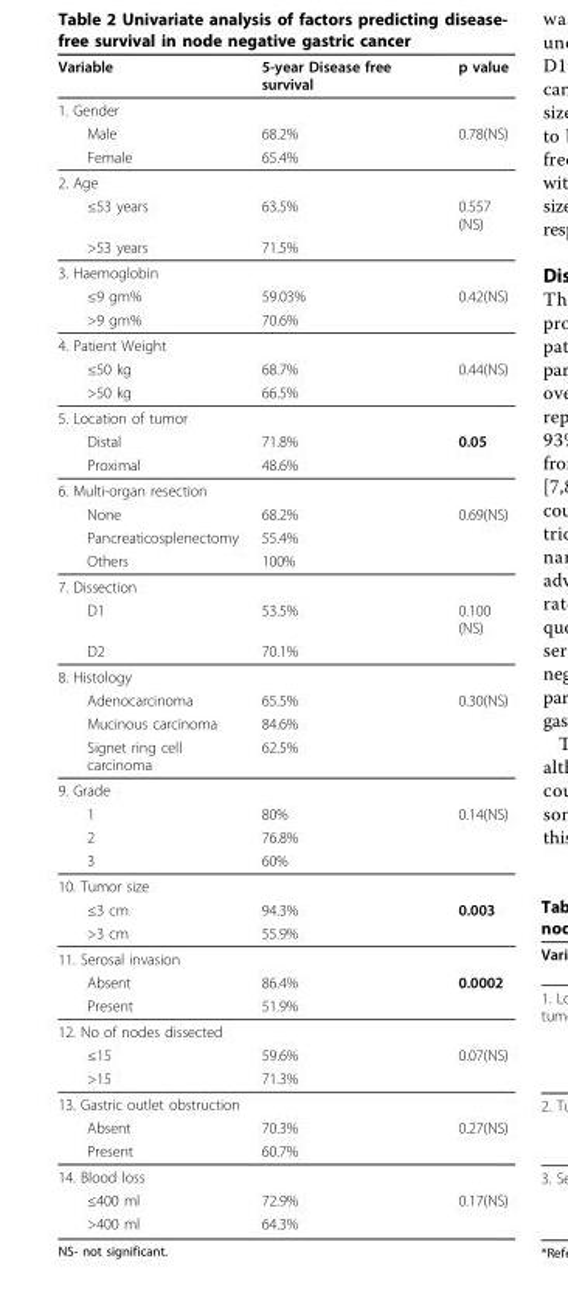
<table><thead><tr><td>Variable</td><td>5-year Disease free survival</td><td>p value</td></tr></thead><tbody><tr><td colspan="3">1. Gender</td></tr><tr><td>Male</td><td>68.2%</td><td>0.78(NS)</td></tr><tr><td>Female</td><td>65.4%</td><td></td></tr><tr><td colspan="3">2. Age</td></tr><tr><td>≤53 years</td><td>63.5%</td><td>0.557 (NS)</td></tr><tr><td>&gt;53 years</td><td>71.5%</td><td></td></tr><tr><td colspan="3">3. Haemoglobin</td></tr><tr><td>≤9 gm%</td><td>59.03%</td><td>0.42(NS)</td></tr><tr><td>&gt;9 gm%</td><td>70.6%</td><td></td></tr><tr><td colspan="3">4. Patient Weight</td></tr><tr><td>≤50 kg</td><td>68.7%</td><td>0.44(NS)</td></tr><tr><td>&gt;50 kg</td><td>66.5%</td><td></td></tr><tr><td colspan="3">5. Location of tumor</td></tr><tr><td>Distal</td><td>71.8%</td><td>0.05</td></tr><tr><td>Proximal</td><td>48.6%</td><td></td></tr><tr><td colspan="3">6. Multi-organ resection</td></tr><tr><td>None</td><td>68.2%</td><td>0.69(NS)</td></tr><tr><td>Pancreaticosplenectomy</td><td>55.4%</td><td></td></tr><tr><td>Others</td><td>100%</td><td></td></tr><tr><td colspan="3">7. Dissection</td></tr><tr><td>D1</td><td>53.5%</td><td>0.100 (NS)</td></tr><tr><td>D2</td><td>70.1%</td><td></td></tr><tr><td colspan="3">8. Histology</td></tr><tr><td>Adenocarcinoma</td><td>65.5%</td><td>0.30(NS)</td></tr><tr><td>Mucinous carcinoma</td><td>84.6%</td><td></td></tr><tr><td>Signet ring cell carcinoma</td><td>62.5%</td><td></td></tr><tr><td colspan="3">9. Grade</td></tr><tr><td>1</td><td>80%</td><td>0.14(NS)</td></tr><tr><td>2</td><td>76.8%</td><td></td></tr><tr><td>3</td><td>60%</td><td></td></tr><tr><td colspan="3">10. Tumor size</td></tr><tr><td>≤3 cm</td><td>94.3%</td><td>0.003</td></tr><tr><td>&gt;3 cm</td><td>55.9%</td><td></td></tr><tr><td colspan="3">11. Serosal invasion</td></tr><tr><td>Absent</td><td>86.4%</td><td>0.0002</td></tr><tr><td>Present</td><td>51.9%</td><td></td></tr><tr><td colspan="3">12. No of nodes dissected</td></tr><tr><td>≤15</td><td>59.6%</td><td>0.07(NS)</td></tr><tr><td>&gt;15</td><td>71.3%</td><td></td></tr><tr><td colspan="3">13. Gastric outlet obstruction</td></tr><tr><td>Absent</td><td>70.3%</td><td>0.27(NS)</td></tr><tr><td>Present</td><td>60.7%</td><td></td></tr><tr><td colspan="3">14. Blood loss</td></tr><tr><td>≤400 ml</td><td>72.9%</td><td>0.17(NS)</td></tr><tr><td>&gt;400 ml</td><td>64.3%</td><td></td></tr></tbody></table>